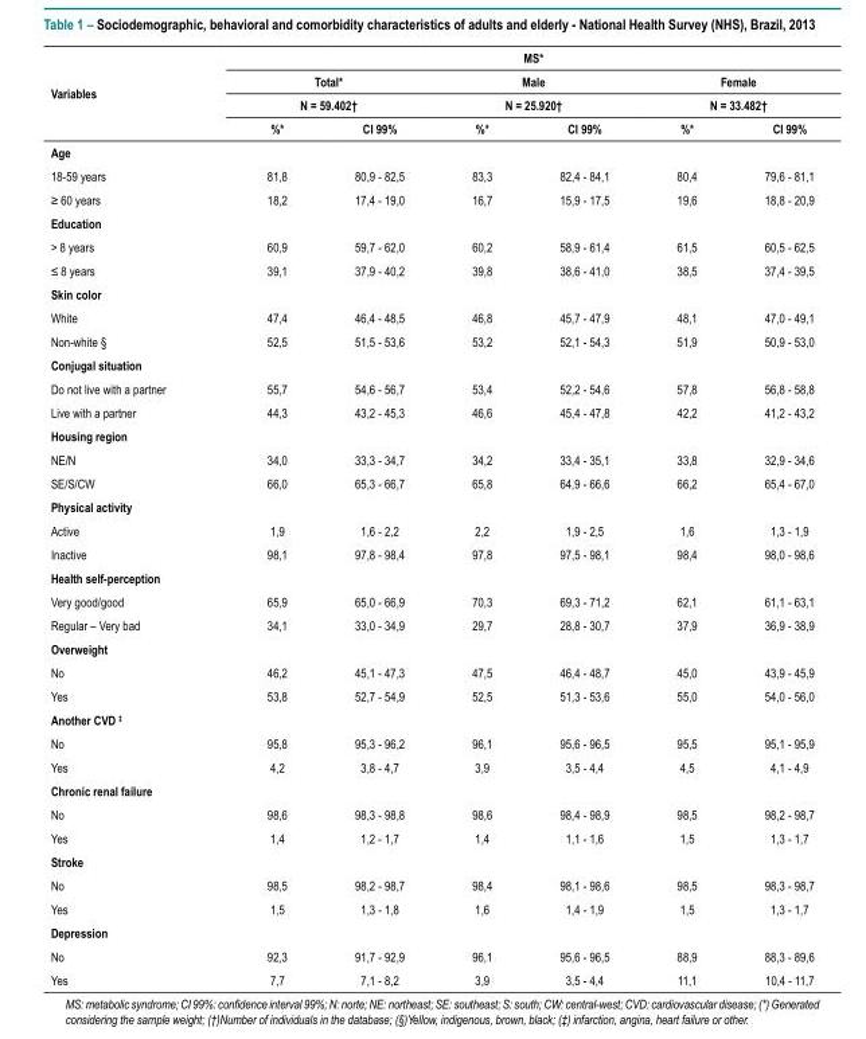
<table><thead><tr><td rowspan="4">Variables</td><td colspan="6">MS*</td></tr><tr><td rowspan="2" colspan="2">Total* N = 59.402†</td><td rowspan="2" colspan="2">Male N = 25.920†</td><td rowspan="2" colspan="2">Female N = 33.482†</td></tr><tr></tr><tr><td>%*</td><td>CI 99%</td><td>%*</td><td>CI 99%</td><td>%*</td><td>CI 99%</td></tr></thead><tbody><tr><td colspan="7">Age</td></tr><tr><td>18-59 years</td><td>81,8</td><td>80,9 - 82,5</td><td>83,3</td><td>82,4 - 84,1</td><td>80,4</td><td>79,6 - 81,1</td></tr><tr><td>≥ 60 years</td><td>18,2</td><td>17,4 - 19,0</td><td>16,7</td><td>15,9 - 17,5</td><td>19,6</td><td>18,8 - 20,9</td></tr><tr><td colspan="7">Education</td></tr><tr><td>&gt; 8 years</td><td>60,9</td><td>59,7 - 62,0</td><td>60,2</td><td>58,9 - 61,4</td><td>61,5</td><td>60,5 - 62,5</td></tr><tr><td>≤ 8 years</td><td>39,1</td><td>37,9 - 40,2</td><td>39,8</td><td>38,6 - 41,0</td><td>38,5</td><td>37,4 - 39,5</td></tr><tr><td colspan="7">Skin color</td></tr><tr><td>White</td><td>47,4</td><td>46,4 - 48,5</td><td>46,8</td><td>45,7 - 47,9</td><td>48,1</td><td>47,0 - 49,1</td></tr><tr><td>Non-white §</td><td>52,5</td><td>51,5 - 53,6</td><td>53,2</td><td>52,1 - 54,3</td><td>51,9</td><td>50,9 - 53,0</td></tr><tr><td colspan="7">Conjugal situation</td></tr><tr><td>Do not live with a partner</td><td>55,7</td><td>54,6 - 56,7</td><td>53,4</td><td>52,2 - 54,6</td><td>57,8</td><td>56,8 - 58,8</td></tr><tr><td>Live with a partner</td><td>44,3</td><td>43,2 - 45,3</td><td>46,6</td><td>45,4 - 47,8</td><td>42,2</td><td>41,2 - 43,2</td></tr><tr><td colspan="7">Housing region</td></tr><tr><td>NE/N</td><td>34,0</td><td>33,3 - 34,7</td><td>34,2</td><td>33,4 - 35,1</td><td>33,8</td><td>32,9 - 34,6</td></tr><tr><td>SE/S/CW</td><td>66,0</td><td>65,3 - 66,7</td><td>65,8</td><td>64,9 - 66,6</td><td>66,2</td><td>65,4 - 67,0</td></tr><tr><td colspan="7">Physical activity</td></tr><tr><td>Active</td><td>1,9</td><td>1,6 - 2,2</td><td>2,2</td><td>1,9 - 2,5</td><td>1,6</td><td>1,3 - 1,9</td></tr><tr><td>Inactive</td><td>98,1</td><td>97,8 - 98,4</td><td>97,8</td><td>97,5 - 98,1</td><td>98,4</td><td>98,0 - 98,6</td></tr><tr><td colspan="7">Health self-perception</td></tr><tr><td>Very good/good</td><td>65,9</td><td>65,0 - 66,9</td><td>70,3</td><td>69,3 - 71,2</td><td>62,1</td><td>61,1 - 63,1</td></tr><tr><td>Regular – Very bad</td><td>34,1</td><td>33,0 - 34,9</td><td>29,7</td><td>28,8 - 30,7</td><td>37,9</td><td>36,9 - 38,9</td></tr><tr><td colspan="7">Overweight</td></tr><tr><td>No</td><td>46,2</td><td>45,1 - 47,3</td><td>47,5</td><td>46,4 - 48,7</td><td>45,0</td><td>43,9 - 45,9</td></tr><tr><td>Yes</td><td>53,8</td><td>52,7 - 54,9</td><td>52,5</td><td>51,3 - 53,6</td><td>55,0</td><td>54,0 - 56,0</td></tr><tr><td colspan="7">Another CVD <sup>‡</sup></td></tr><tr><td>No</td><td>95,8</td><td>95,3 - 96,2</td><td>96,1</td><td>95,6 - 96,5</td><td>95,5</td><td>95,1 - 95,9</td></tr><tr><td>Yes</td><td>4,2</td><td>3,8 - 4,7</td><td>3,9</td><td>3,5 - 4,4</td><td>4,5</td><td>4,1 - 4,9</td></tr><tr><td colspan="7">Chronic renal failure</td></tr><tr><td>No</td><td>98,6</td><td>98,3 - 98,8</td><td>98,6</td><td>98,4 - 98,9</td><td>98,5</td><td>98,2 - 98,7</td></tr><tr><td>Yes</td><td>1,4</td><td>1,2 - 1,7</td><td>1,4</td><td>1,1 - 1,6</td><td>1,5</td><td>1,3 - 1,7</td></tr><tr><td colspan="7">Stroke</td></tr><tr><td>No</td><td>98,5</td><td>98,2 - 98,7</td><td>98,4</td><td>98,1 - 98,6</td><td>98,5</td><td>98,3 - 98,7</td></tr><tr><td>Yes</td><td>1,5</td><td>1,3 - 1,8</td><td>1,6</td><td>1,4 - 1,9</td><td>1,5</td><td>1,3 - 1,7</td></tr><tr><td colspan="7">Depression</td></tr><tr><td>No</td><td>92,3</td><td>91,7 - 92,9</td><td>96,1</td><td>95,6 - 96,5</td><td>88,9</td><td>88,3 - 89,6</td></tr><tr><td>Yes</td><td>7,7</td><td>7,1 - 8,2</td><td>3,9</td><td>3,5 - 4,4</td><td>11,1</td><td>10,4 - 11,7</td></tr></tbody></table>